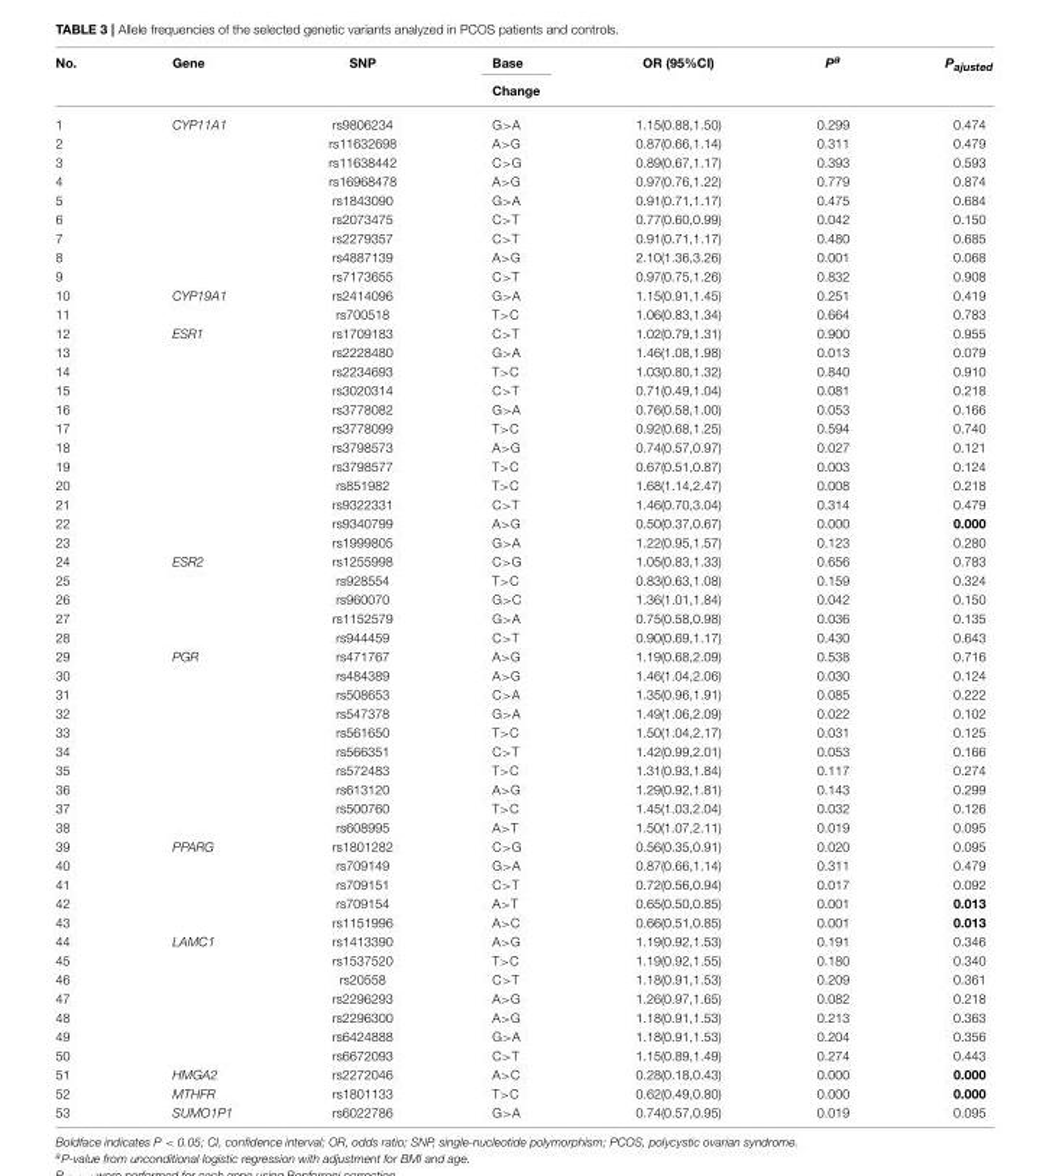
<table><thead><tr><td rowspan="2">No.</td><td rowspan="2">Gene</td><td rowspan="2">SNP</td><td rowspan="2">Base Change</td><td rowspan="2">OR (95%CI)</td><td rowspan="2">P<sup>a</sup></td><td rowspan="2">Pajusted</td></tr><tr></tr></thead><tbody><tr><td>1</td><td>CYP11A1</td><td>rs9806234</td><td>G&gt;A</td><td>1.15(0.88,1.50)</td><td>0.299</td><td>0.474</td></tr><tr><td>2</td><td></td><td>rs11632698</td><td>A&gt;G</td><td>0.87(0.66,1.14)</td><td>0.311</td><td>0.479</td></tr><tr><td>3</td><td></td><td>rs11638442</td><td>C&gt;G</td><td>0.89(0.67,1.17)</td><td>0.393</td><td>0.593</td></tr><tr><td>4</td><td></td><td>rs16968478</td><td>A&gt;G</td><td>0.97(0.76,1.22)</td><td>0.779</td><td>0.874</td></tr><tr><td>5</td><td></td><td>rs1843090</td><td>G&gt;A</td><td>0.91(0.71,1.17)</td><td>0.475</td><td>0.684</td></tr><tr><td>6</td><td></td><td>rs2073475</td><td>C&gt;T</td><td>0.77(0.60,0.99)</td><td>0.042</td><td>0.150</td></tr><tr><td>7</td><td></td><td>rs2279357</td><td>C&gt;T</td><td>0.91(0.71,1.17)</td><td>0.480</td><td>0.685</td></tr><tr><td>8</td><td></td><td>rs4887139</td><td>A&gt;G</td><td>2.10(1.36,3.26)</td><td>0.001</td><td>0.068</td></tr><tr><td>9</td><td></td><td>rs7173655</td><td>C&gt;T</td><td>0.97(0.75,1.26)</td><td>0.832</td><td>0.908</td></tr><tr><td>10</td><td>CYP19A1</td><td>rs2414096</td><td>G&gt;A</td><td>1.15(0.91,1.45)</td><td>0.251</td><td>0.419</td></tr><tr><td>11</td><td></td><td>rs700518</td><td>T&gt;C</td><td>1.06(0.83,1.34)</td><td>0.664</td><td>0.783</td></tr><tr><td>12</td><td>ESR1</td><td>rs1709183</td><td>C&gt;T</td><td>1.02(0.79,1.31)</td><td>0.900</td><td>0.955</td></tr><tr><td>13</td><td></td><td>rs2228480</td><td>G&gt;A</td><td>1.46(1.08,1.98)</td><td>0.013</td><td>0.079</td></tr><tr><td>14</td><td></td><td>rs2234693</td><td>T&gt;C</td><td>1.03(0.80,1.32)</td><td>0.840</td><td>0.910</td></tr><tr><td>15</td><td></td><td>rs3020314</td><td>C&gt;T</td><td>0.71(0.49,1.04)</td><td>0.081</td><td>0.218</td></tr><tr><td>16</td><td></td><td>rs3778082</td><td>G&gt;A</td><td>0.76(0.58,1.00)</td><td>0.053</td><td>0.166</td></tr><tr><td>17</td><td></td><td>rs3778099</td><td>T&gt;C</td><td>0.92(0.68,1.25)</td><td>0.594</td><td>0.740</td></tr><tr><td>18</td><td></td><td>rs3798573</td><td>A&gt;G</td><td>0.74(0.57,0.97)</td><td>0.027</td><td>0.121</td></tr><tr><td>19</td><td></td><td>rs3798577</td><td>T&gt;C</td><td>0.67(0.51,0.87)</td><td>0.003</td><td>0.124</td></tr><tr><td>20</td><td></td><td>rs851982</td><td>T&gt;C</td><td>1.68(1.14,2.47)</td><td>0.008</td><td>0.218</td></tr><tr><td>21</td><td></td><td>rs9322331</td><td>C&gt;T</td><td>1.46(0.70,3.04)</td><td>0.314</td><td>0.479</td></tr><tr><td>22</td><td></td><td>rs9340799</td><td>A&gt;G</td><td>0.50(0.37,0.67)</td><td>0.000</td><td>0.000</td></tr><tr><td>23</td><td></td><td>rs1999805</td><td>G&gt;A</td><td>1.22(0.95,1.57)</td><td>0.123</td><td>0.280</td></tr><tr><td>24</td><td>ESR2</td><td>rs1255998</td><td>C&gt;G</td><td>1.05(0.83,1.33)</td><td>0.656</td><td>0.783</td></tr><tr><td>25</td><td></td><td>rs928554</td><td>T&gt;C</td><td>0.83(0.63,1.08)</td><td>0.159</td><td>0.324</td></tr><tr><td>26</td><td></td><td>rs960070</td><td>G&gt;C</td><td>1.36(1.01,1.84)</td><td>0.042</td><td>0.150</td></tr><tr><td>27</td><td></td><td>rs1152579</td><td>G&gt;A</td><td>0.75(0.58,0.98)</td><td>0.036</td><td>0.135</td></tr><tr><td>28</td><td></td><td>rs944459</td><td>C&gt;T</td><td>0.90(0.69,1.17)</td><td>0.430</td><td>0.643</td></tr><tr><td>29</td><td>PGR</td><td>rs471767</td><td>A&gt;G</td><td>1.19(0.68,2.09)</td><td>0.538</td><td>0.716</td></tr><tr><td>30</td><td></td><td>rs484389</td><td>A&gt;G</td><td>1.46(1.04,2.06)</td><td>0.030</td><td>0.124</td></tr><tr><td>31</td><td></td><td>rs508653</td><td>C&gt;A</td><td>1.35(0.96,1.91)</td><td>0.085</td><td>0.222</td></tr><tr><td>32</td><td></td><td>rs547378</td><td>G&gt;A</td><td>1.49(1.06,2.09)</td><td>0.022</td><td>0.102</td></tr><tr><td>33</td><td></td><td>rs561650</td><td>T&gt;C</td><td>1.50(1.04,2.17)</td><td>0.031</td><td>0.125</td></tr><tr><td>34</td><td></td><td>rs566351</td><td>C&gt;T</td><td>1.42(0.99,2.01)</td><td>0.053</td><td>0.166</td></tr><tr><td>35</td><td></td><td>rs572483</td><td>T&gt;C</td><td>1.31(0.93,1.84)</td><td>0.117</td><td>0.274</td></tr><tr><td>36</td><td></td><td>rs613120</td><td>A&gt;G</td><td>1.29(0.92,1.81)</td><td>0.143</td><td>0.299</td></tr><tr><td>37</td><td></td><td>rs500760</td><td>T&gt;C</td><td>1.45(1.03,2.04)</td><td>0.032</td><td>0.126</td></tr><tr><td>38</td><td></td><td>rs608995</td><td>A&gt;T</td><td>1.50(1.07,2.11)</td><td>0.019</td><td>0.095</td></tr><tr><td>39</td><td>PPARG</td><td>rs1801282</td><td>C&gt;G</td><td>0.56(0.35,0.91)</td><td>0.020</td><td>0.095</td></tr><tr><td>40</td><td></td><td>rs709149</td><td>G&gt;A</td><td>0.87(0.66,1.14)</td><td>0.311</td><td>0.479</td></tr><tr><td>41</td><td></td><td>rs709151</td><td>C&gt;T</td><td>0.72(0.56,0.94)</td><td>0.017</td><td>0.092</td></tr><tr><td>42</td><td></td><td>rs709154</td><td>A&gt;T</td><td>0.65(0.50,0.85)</td><td>0.001</td><td>0.013</td></tr><tr><td>43</td><td></td><td>rs1151996</td><td>A&gt;C</td><td>0.66(0.51,0.85)</td><td>0.001</td><td>0.013</td></tr><tr><td>44</td><td>LAMC1</td><td>rs1413390</td><td>A&gt;G</td><td>1.19(0.92,1.53)</td><td>0.191</td><td>0.346</td></tr><tr><td>45</td><td></td><td>rs1537520</td><td>T&gt;C</td><td>1.19(0.92,1.55)</td><td>0.180</td><td>0.340</td></tr><tr><td>46</td><td></td><td>rs20558</td><td>C&gt;T</td><td>1.18(0.91,1.53)</td><td>0.209</td><td>0.361</td></tr><tr><td>47</td><td></td><td>rs2296293</td><td>A&gt;G</td><td>1.26(0.97,1.65)</td><td>0.082</td><td>0.218</td></tr><tr><td>48</td><td></td><td>rs2296300</td><td>A&gt;G</td><td>1.18(0.91,1.53)</td><td>0.213</td><td>0.363</td></tr><tr><td>49</td><td></td><td>rs6424888</td><td>G&gt;A</td><td>1.18(0.91,1.53)</td><td>0.204</td><td>0.356</td></tr><tr><td>50</td><td></td><td>rs6672093</td><td>C&gt;T</td><td>1.15(0.89,1.49)</td><td>0.274</td><td>0.443</td></tr><tr><td>51</td><td>HMGA2</td><td>rs2272046</td><td>A&gt;C</td><td>0.28(0.18,0.43)</td><td>0.000</td><td>0.000</td></tr><tr><td>52</td><td>MTHFR</td><td>rs1801133</td><td>T&gt;C</td><td>0.62(0.49,0.80)</td><td>0.000</td><td>0.000</td></tr><tr><td>53</td><td>SUMO1P1</td><td>rs6022786</td><td>G&gt;A</td><td>0.74(0.57,0.95)</td><td>0.019</td><td>0.095</td></tr></tbody></table>